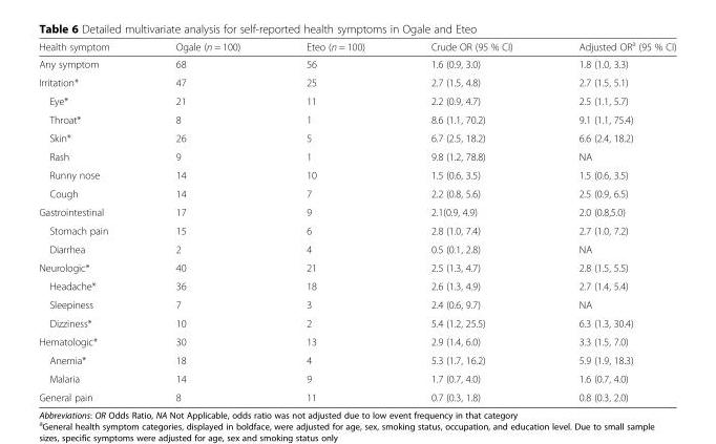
<table><thead><tr><td>Health symptom</td><td>Ogale (n = 100)</td><td>Eteo (n = 100)</td><td>Crude OR (95 % CI)</td><td>Adjusted OR<sup>a</sup> (95 % CI)</td></tr></thead><tbody><tr><td>Any symptom</td><td>68</td><td>56</td><td>1.6 (0.9, 3.0)</td><td>1.8 (1.0, 3.3)</td></tr><tr><td>Irritation*</td><td>47</td><td>25</td><td>2.7 (1.5, 4.8)</td><td>2.7 (1.5, 5.1)</td></tr><tr><td>Eye*</td><td>21</td><td>11</td><td>2.2 (0.9, 4.7)</td><td>2.5 (1.1, 5.7)</td></tr><tr><td>Throat*</td><td>8</td><td>1</td><td>8.6 (1.1, 70.2)</td><td>9.1 (1.1, 75.4)</td></tr><tr><td>Skin*</td><td>26</td><td>5</td><td>6.7 (2.5, 18.2)</td><td>6.6 (2.4, 18.2)</td></tr><tr><td>Rash</td><td>9</td><td>1</td><td>9.8 (1.2, 78.8)</td><td>NA</td></tr><tr><td>Runny nose</td><td>14</td><td>10</td><td>1.5 (0.6, 3.5)</td><td>1.5 (0.6, 3.5)</td></tr><tr><td>Cough</td><td>14</td><td>7</td><td>2.2 (0.8, 5.6)</td><td>2.5 (0.9, 6.5)</td></tr><tr><td>Gastrointestinal</td><td>17</td><td>9</td><td>2.1(0.9, 4.9)</td><td>2.0 (0.8,5.0)</td></tr><tr><td>Stomach pain</td><td>15</td><td>6</td><td>2.8 (1.0, 7.4)</td><td>2.7 (1.0, 7.2)</td></tr><tr><td>Diarrhea</td><td>2</td><td>4</td><td>0.5 (0.1, 2.8)</td><td>NA</td></tr><tr><td>Neurologic*</td><td>40</td><td>21</td><td>2.5 (1.3, 4.7)</td><td>2.8 (1.5, 5.5)</td></tr><tr><td>Headache*</td><td>36</td><td>18</td><td>2.6 (1.3, 4.9)</td><td>2.7 (1.4, 5.4)</td></tr><tr><td>Sleepiness</td><td>7</td><td>3</td><td>2.4 (0.6, 9.7)</td><td>NA</td></tr><tr><td>Dizziness*</td><td>10</td><td>2</td><td>5.4 (1.2, 25.5)</td><td>6.3 (1.3, 30.4)</td></tr><tr><td>Hematologic*</td><td>30</td><td>13</td><td>2.9 (1.4, 6.0)</td><td>3.3 (1.5, 7.0)</td></tr><tr><td>Anemia*</td><td>18</td><td>4</td><td>5.3 (1.7, 16.2)</td><td>5.9 (1.9, 18.3)</td></tr><tr><td>Malaria</td><td>14</td><td>9</td><td>1.7 (0.7, 4.0)</td><td>1.6 (0.7, 4.0)</td></tr><tr><td>General pain</td><td>8</td><td>11</td><td>0.7 (0.3, 1.8)</td><td>0.8 (0.3, 2.0)</td></tr></tbody></table>